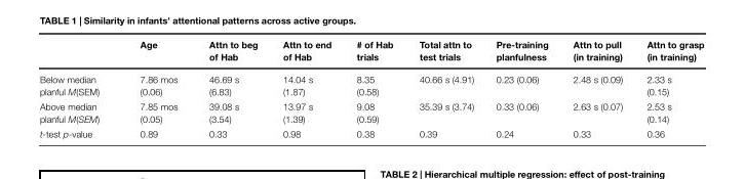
<table><thead><tr><td></td><td>Age</td><td>Attn to beg of Hab</td><td>Attn to end of Hab</td><td># of Hab trials</td><td>Total attn to test trials</td><td>Pre-training planfulness</td><td>Attn to pull (in training)</td><td>Attn to grasp (in training)</td></tr></thead><tbody><tr><td>Below median planful M(SEM)</td><td>7.86 mos (0.06)</td><td>46.69 s (6.83)</td><td>14.04 s (1.87)</td><td>8.35 (0.58)</td><td>40.66 s (4.91)</td><td>0.23 (0.06)</td><td>2.48 s (0.09)</td><td>2.33 s (0.15)</td></tr><tr><td>Above median planful M(SEM)</td><td>7.85 mos (0.05)</td><td>39.08 s (3.54)</td><td>13.97 s (1.39)</td><td>9.08 (0.59)</td><td>35.39 s (3.74)</td><td>0.33 (0.06)</td><td>2.63 s (0.07)</td><td>2.53 s (0.14)</td></tr><tr><td>t-test p-value</td><td>0.89</td><td>0.33</td><td>0.98</td><td>0.38</td><td>0.39</td><td>0.24</td><td>0.33</td><td>0.36</td></tr></tbody></table>